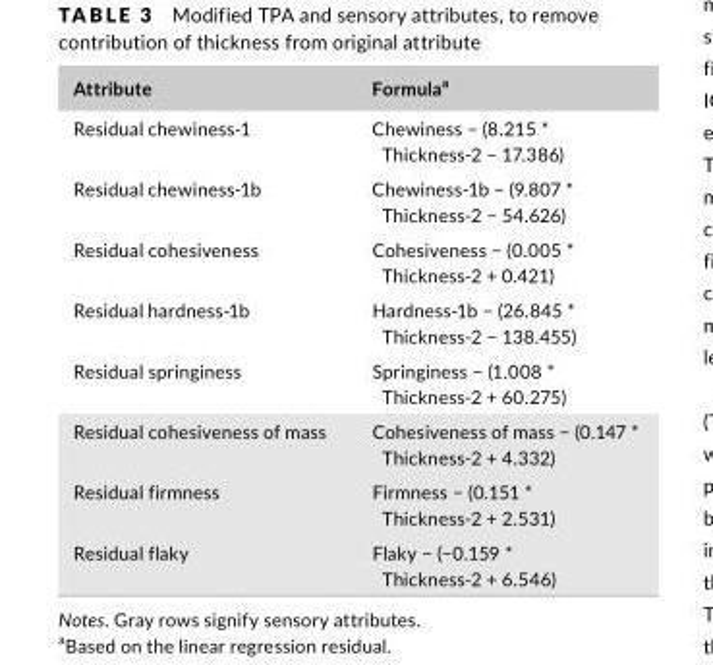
<table><thead><tr><td>Attribute</td><td>Formula<sup>a</sup></td></tr></thead><tbody><tr><td>Residual chewiness- 1</td><td>Chewiness − (8.215 * Thickness- 2 − 17.386)</td></tr><tr><td>Residual chewiness- 1b</td><td>Chewiness- 1b − (9.807 * Thickness- 2 − 54.626)</td></tr><tr><td>Residual cohesiveness</td><td>Cohesiveness − (0.005 * Thickness- 2 + 0.421)</td></tr><tr><td>Residual hardness- 1b</td><td>Hardness- 1b − (26.845 * Thickness- 2 − 138.455)</td></tr><tr><td>Residual springiness</td><td>Springiness − (1.008 * Thickness- 2 + 60.275)</td></tr><tr><td>Residual cohesiveness of mass</td><td>Cohesiveness of mass − (0.147 * Thickness- 2 + 4.332)</td></tr><tr><td>Residual firmness</td><td>Firmness − (0.151 * Thickness- 2 + 2.531)</td></tr><tr><td>Residual flaky</td><td>Flaky − (−0.159 * Thickness- 2 + 6.546)</td></tr></tbody></table>